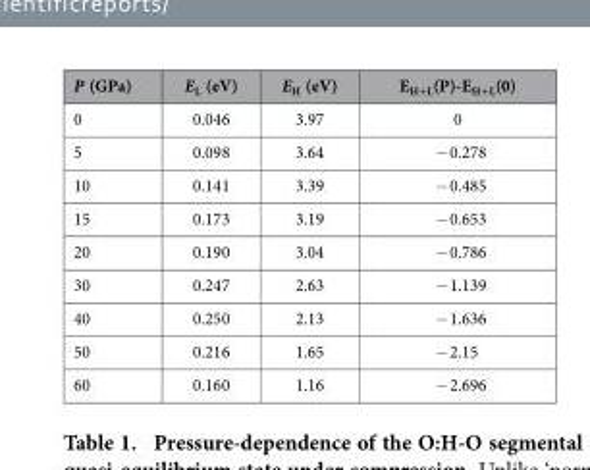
<table><thead><tr><td>P (GPa)</td><td>E<sub>L</sub> (eV)</td><td>E<sub>H</sub> (eV)</td><td>E<sub>H+L</sub>(P)-E<sub>H+L</sub>(0)</td></tr></thead><tbody><tr><td>0</td><td>0.046</td><td>3.97</td><td>0</td></tr><tr><td>5</td><td>0.098</td><td>3.64</td><td>− 0.278</td></tr><tr><td>10</td><td>0.141</td><td>3.39</td><td>− 0.485</td></tr><tr><td>15</td><td>0.173</td><td>3.19</td><td>− 0.653</td></tr><tr><td>20</td><td>0.190</td><td>3.04</td><td>− 0.786</td></tr><tr><td>30</td><td>0.247</td><td>2.63</td><td>− 1.139</td></tr><tr><td>40</td><td>0.250</td><td>2.13</td><td>− 1.636</td></tr><tr><td>50</td><td>0.216</td><td>1.65</td><td>− 2.15</td></tr><tr><td>60</td><td>0.160</td><td>1.16</td><td>− 2.696</td></tr></tbody></table>